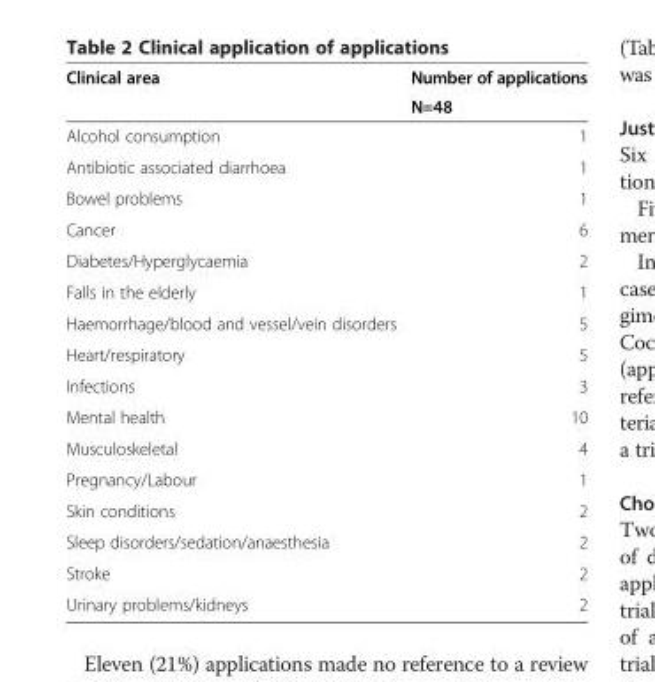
<table><thead><tr><td rowspan="2">Clinical area</td><td rowspan="2">Number of applications N=48</td></tr><tr></tr></thead><tbody><tr><td>Alcohol consumption</td><td>1</td></tr><tr><td>Antibiotic associated diarrhoea</td><td>1</td></tr><tr><td>Bowel problems</td><td>1</td></tr><tr><td>Cancer</td><td>6</td></tr><tr><td>Diabetes/Hyperglycaemia</td><td>2</td></tr><tr><td>Falls in the elderly</td><td>1</td></tr><tr><td>Haemorrhage/blood and vessel/vein disorders</td><td>5</td></tr><tr><td>Heart/respiratory</td><td>5</td></tr><tr><td>Infections</td><td>3</td></tr><tr><td>Mental health</td><td>10</td></tr><tr><td>Musculoskeletal</td><td>4</td></tr><tr><td>Pregnancy/Labour</td><td>1</td></tr><tr><td>Skin conditions</td><td>2</td></tr><tr><td>Sleep disorders/sedation/anaesthesia</td><td>2</td></tr><tr><td>Stroke</td><td>2</td></tr><tr><td>Urinary problems/kidneys</td><td>2</td></tr></tbody></table>